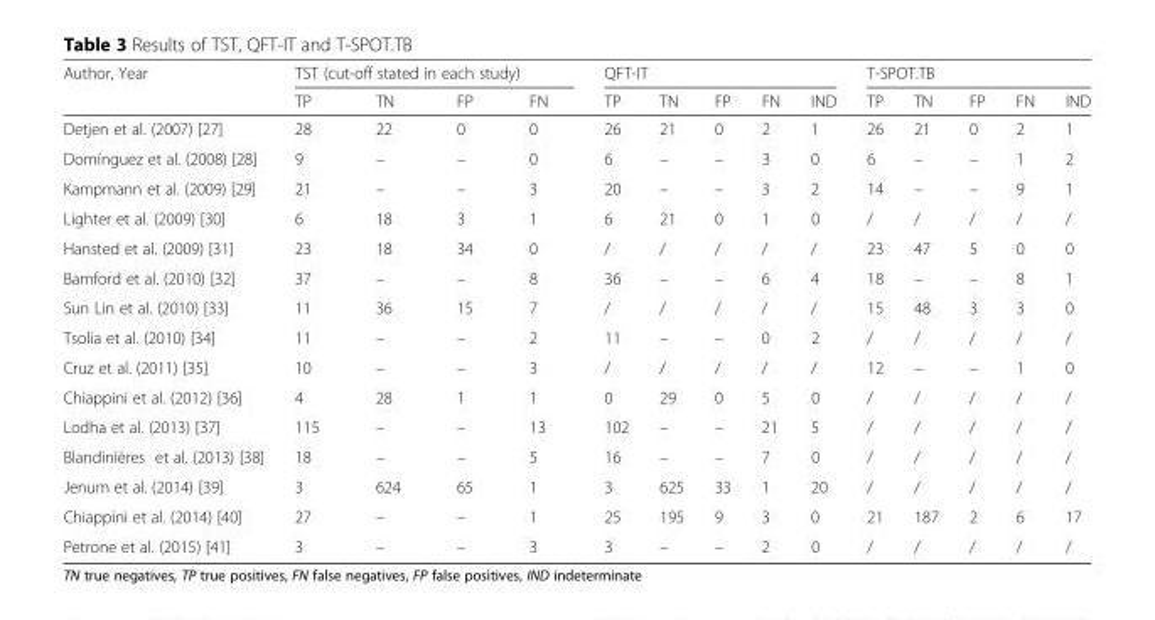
<table><thead><tr><td rowspan="2">Author, Year</td><td colspan="4">TST (cut-off stated in each study)</td><td colspan="5">QFT-IT</td><td colspan="5">T-SPOT.TB</td></tr><tr><td>TP</td><td>TN</td><td>FP</td><td>FN</td><td>TP</td><td>TN</td><td>FP</td><td>FN</td><td>IND</td><td>TP</td><td>TN</td><td>FP</td><td>FN</td><td>IND</td></tr></thead><tbody><tr><td>Detjen et al. (2007) [27]</td><td>28</td><td>22</td><td>0</td><td>0</td><td>26</td><td>21</td><td>0</td><td>2</td><td>1</td><td>26</td><td>21</td><td>0</td><td>2</td><td>1</td></tr><tr><td>Domínguez et al. (2008) [28]</td><td>9</td><td>–</td><td>–</td><td>0</td><td>6</td><td>–</td><td>–</td><td>3</td><td>0</td><td>6</td><td>–</td><td>–</td><td>1</td><td>2</td></tr><tr><td>Kampmann et al. (2009) [29]</td><td>21</td><td>–</td><td>–</td><td>3</td><td>20</td><td>–</td><td>–</td><td>3</td><td>2</td><td>14</td><td>–</td><td>–</td><td>9</td><td>1</td></tr><tr><td>Lighter et al. (2009) [30]</td><td>6</td><td>18</td><td>3</td><td>1</td><td>6</td><td>21</td><td>0</td><td>1</td><td>0</td><td>/</td><td>/</td><td>/</td><td>/</td><td>/</td></tr><tr><td>Hansted et al. (2009) [31]</td><td>23</td><td>18</td><td>34</td><td>0</td><td>/</td><td>/</td><td>/</td><td>/</td><td>/</td><td>23</td><td>47</td><td>5</td><td>0</td><td>0</td></tr><tr><td>Bamford et al. (2010) [32]</td><td>37</td><td>–</td><td>–</td><td>8</td><td>36</td><td>–</td><td>–</td><td>6</td><td>4</td><td>18</td><td>–</td><td>–</td><td>8</td><td>1</td></tr><tr><td>Sun Lin et al. (2010) [33]</td><td>11</td><td>36</td><td>15</td><td>7</td><td>/</td><td>/</td><td>/</td><td>/</td><td>/</td><td>15</td><td>48</td><td>3</td><td>3</td><td>0</td></tr><tr><td>Tsolia et al. (2010) [34]</td><td>11</td><td>–</td><td>–</td><td>2</td><td>11</td><td>–</td><td>–</td><td>0</td><td>2</td><td>/</td><td>/</td><td>/</td><td>/</td><td>/</td></tr><tr><td>Cruz et al. (2011) [35]</td><td>10</td><td>–</td><td>–</td><td>3</td><td>/</td><td>/</td><td>/</td><td>/</td><td>/</td><td>12</td><td>–</td><td>–</td><td>1</td><td>0</td></tr><tr><td>Chiappini et al. (2012) [36]</td><td>4</td><td>28</td><td>1</td><td>1</td><td>0</td><td>29</td><td>0</td><td>5</td><td>0</td><td>/</td><td>/</td><td>/</td><td>/</td><td>/</td></tr><tr><td>Lodha et al. (2013) [37]</td><td>115</td><td>–</td><td>–</td><td>13</td><td>102</td><td>–</td><td>–</td><td>21</td><td>5</td><td>/</td><td>/</td><td>/</td><td>/</td><td>/</td></tr><tr><td>Blandinières et al. (2013) [38]</td><td>18</td><td>–</td><td>–</td><td>5</td><td>16</td><td>–</td><td>–</td><td>7</td><td>0</td><td>/</td><td>/</td><td>/</td><td>/</td><td>/</td></tr><tr><td>Jenum et al. (2014) [39]</td><td>3</td><td>624</td><td>65</td><td>1</td><td>3</td><td>625</td><td>33</td><td>1</td><td>20</td><td>/</td><td>/</td><td>/</td><td>/</td><td>/</td></tr><tr><td>Chiappini et al. (2014) [40]</td><td>27</td><td>–</td><td>–</td><td>1</td><td>25</td><td>195</td><td>9</td><td>3</td><td>0</td><td>21</td><td>187</td><td>2</td><td>6</td><td>17</td></tr><tr><td>Petrone et al. (2015) [41]</td><td>3</td><td>–</td><td>–</td><td>3</td><td>3</td><td>–</td><td>–</td><td>2</td><td>0</td><td>/</td><td>/</td><td>/</td><td>/</td><td>/</td></tr></tbody></table>